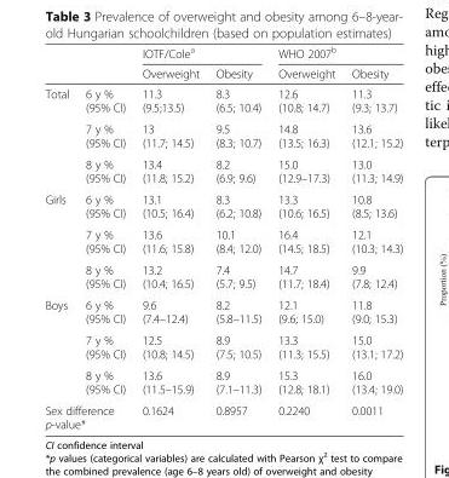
<table><thead><tr><td rowspan="2"></td><td rowspan="2"></td><td colspan="2">IOTF/Cole<sup>a</sup></td><td colspan="2">WHO 2007<sup>b</sup></td></tr><tr><td>Overweight</td><td>Obesity</td><td>Overweight</td><td>Obesity</td></tr></thead><tbody><tr><td rowspan="3">Total</td><td>6 y % (95% CI)</td><td>11.3 (9.5;13.5)</td><td>8.3 (6.5; 10.4)</td><td>12.6 (10.8; 14.7)</td><td>11.3 (9.3; 13.7)</td></tr><tr><td>7 y % (95% CI)</td><td>13 (11.7; 14.5)</td><td>9.5 (8.3; 10.7)</td><td>14.8 (13.5; 16.3)</td><td>13.6 (12.1; 15.2)</td></tr><tr><td>8 y % (95% CI)</td><td>13.4 (11.8; 15.2)</td><td>8.2 (6.9; 9.6)</td><td>15.0 (12.9–17.3)</td><td>13.0 (11.3; 14.9)</td></tr><tr><td rowspan="3">Girls</td><td>6 y % (95% CI)</td><td>13.1 (10.5; 16.4)</td><td>8.3 (6.2; 10.8)</td><td>13.3 (10.6; 16.5)</td><td>10.8 (8.5; 13.6)</td></tr><tr><td>7 y % (95% CI)</td><td>13.6 (11.6; 15.8)</td><td>10.1 (8.4; 12.0)</td><td>16.4 (14.5; 18.5)</td><td>12.1 (10.3; 14.3)</td></tr><tr><td>8 y % (95% CI)</td><td>13.2 (10.4; 16.5)</td><td>7.4 (5.7; 9.5)</td><td>14.7 (11.7; 18.4)</td><td>9.9 (7.8; 12.4)</td></tr><tr><td rowspan="3">Boys</td><td>6 y % (95% CI)</td><td>9.6 (7.4–12.4)</td><td>8.2 (5.8–11.5)</td><td>12.1 (9.6; 15.0)</td><td>11.8 (9.0; 15.3)</td></tr><tr><td>7 y % (95% CI)</td><td>12.5 (10.8; 14.5)</td><td>8.9 (7.5; 10.5)</td><td>13.3 (11.3; 15.5)</td><td>15.0 (13.1; 17.2)</td></tr><tr><td>8 y % (95% CI)</td><td>13.6 (11.5–15.9)</td><td>8.9 (7.1–11.3)</td><td>15.3 (12.8; 18.1)</td><td>16.0 (13.4; 19.0)</td></tr><tr><td colspan="2">Sex difference p-value*</td><td>0.1624</td><td>0.8957</td><td>0.2240</td><td>0.0011</td></tr></tbody></table>